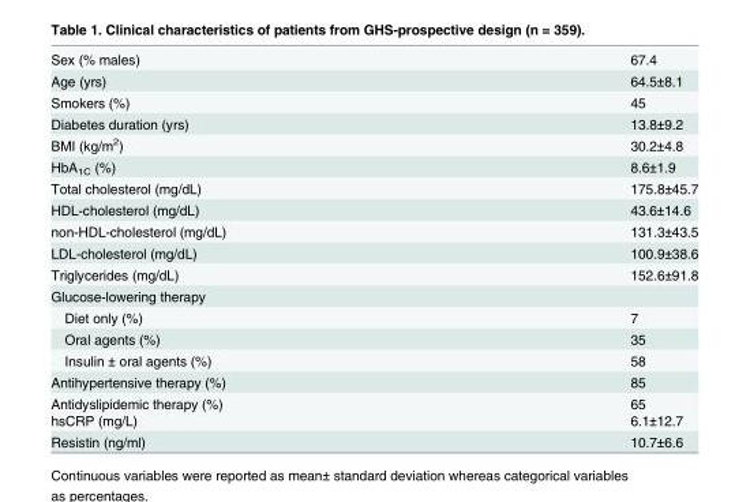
<table><tbody><tr><td>Sex (% males)</td><td>67.4</td></tr><tr><td>Age (yrs)</td><td>64.5±8.1</td></tr><tr><td>Smokers (%)</td><td>45</td></tr><tr><td>Diabetes duration (yrs)</td><td>13.8±9.2</td></tr><tr><td>BMI (kg/m<sup>2</sup>)</td><td>30.2±4.8</td></tr><tr><td>HbA<sub>1C</sub> (%)</td><td>8.6±1.9</td></tr><tr><td>Total cholesterol (mg/dL)</td><td>175.8±45.7</td></tr><tr><td>HDL-cholesterol (mg/dL)</td><td>43.6±14.6</td></tr><tr><td>non-HDL-cholesterol (mg/dL)</td><td>131.3±43.5</td></tr><tr><td>LDL-cholesterol (mg/dL)</td><td>100.9±38.6</td></tr><tr><td>Triglycerides (mg/dL)</td><td>152.6±91.8</td></tr><tr><td colspan="2">Glucose-lowering therapy</td></tr><tr><td>Diet only (%)</td><td>7</td></tr><tr><td>Oral agents (%)</td><td>35</td></tr><tr><td>Insulin ± oral agents (%)</td><td>58</td></tr><tr><td>Antihypertensive therapy (%)</td><td>85</td></tr><tr><td>Antidyslipidemic therapy (%)</td><td>65</td></tr><tr><td>hsCRP (mg/L)</td><td>6.1±12.7</td></tr><tr><td>Resistin (ng/ml)</td><td>10.7±6.6</td></tr></tbody></table>